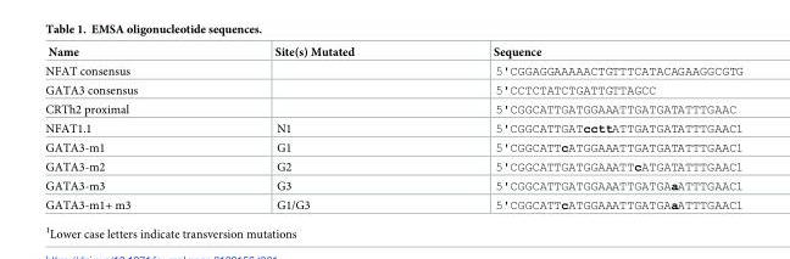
<table><thead><tr><td>Name</td><td>Site(s) Mutated</td><td>Sequence</td></tr></thead><tbody><tr><td>NFAT consensus</td><td></td><td>5&#x27;CGGAGGAAAAACTGTTTCATACAGAAGGCGTG</td></tr><tr><td>GATA3 consensus</td><td></td><td>5&#x27;CCTCTATCTGATTGTTAGCC</td></tr><tr><td>CRTh2 proximal</td><td></td><td>5&#x27;CGGCATTGATGGAAATTGATGATATTTGAAC</td></tr><tr><td>NFAT1.1</td><td>N1</td><td>5&#x27;CGGCATTGATccttATTGATGATATTTGAAC1</td></tr><tr><td>GATA3-m1</td><td>G1</td><td>5&#x27;CGGCATTcATGGAAATTGATGATATTTGAAC1</td></tr><tr><td>GATA3-m2</td><td>G2</td><td>5&#x27;CGGCATTGATGGAAATTcATGATATTTGAAC1</td></tr><tr><td>GATA3-m3</td><td>G3</td><td>5&#x27;CGGCATTGATGGAAATTGATGAaATTTGAAC1</td></tr><tr><td>GATA3-m1+ m3</td><td>G1/G3</td><td>5&#x27;CGGCATTcATGGAAATTGATGAaATTTGAAC1</td></tr></tbody></table>